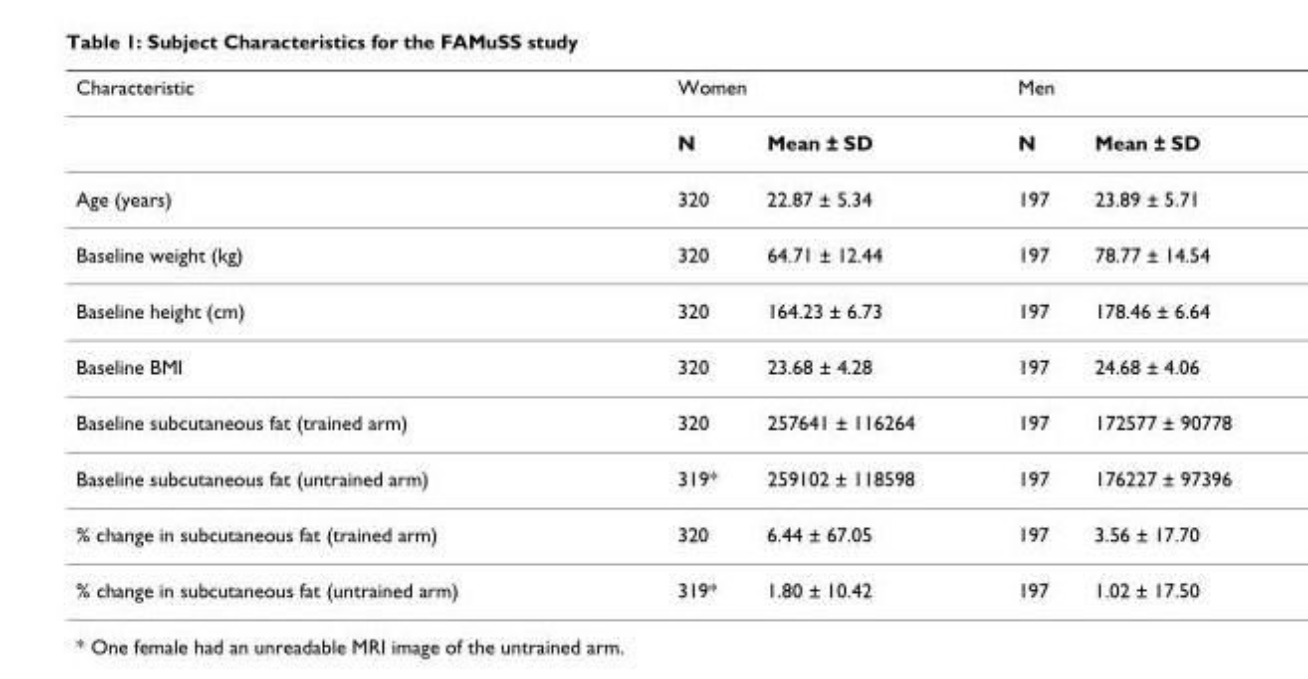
<table><thead><tr><td rowspan="2">Characteristic</td><td colspan="2">Women</td><td colspan="2">Men</td></tr><tr><td>N</td><td>Mean ± SD</td><td>N</td><td>Mean ± SD</td></tr></thead><tbody><tr><td>Age (years)</td><td>320</td><td>22.87 ± 5.34</td><td>197</td><td>23.89 ± 5.71</td></tr><tr><td>Baseline weight (kg)</td><td>320</td><td>64.71 ± 12.44</td><td>197</td><td>78.77 ± 14.54</td></tr><tr><td>Baseline height (cm)</td><td>320</td><td>164.23 ± 6.73</td><td>197</td><td>178.46 ± 6.64</td></tr><tr><td>Baseline BMI</td><td>320</td><td>23.68 ± 4.28</td><td>197</td><td>24.68 ± 4.06</td></tr><tr><td>Baseline subcutaneous fat (trained arm)</td><td>320</td><td>257641 ± 116264</td><td>197</td><td>172577 ± 90778</td></tr><tr><td>Baseline subcutaneous fat (untrained arm)</td><td>319*</td><td>259102 ± 118598</td><td>197</td><td>176227 ± 97396</td></tr><tr><td>% change in subcutaneous fat (trained arm)</td><td>320</td><td>6.44 ± 67.05</td><td>197</td><td>3.56 ± 17.70</td></tr><tr><td>% change in subcutaneous fat (untrained arm)</td><td>319*</td><td>1.80 ± 10.42</td><td>197</td><td>1.02 ± 17.50</td></tr></tbody></table>